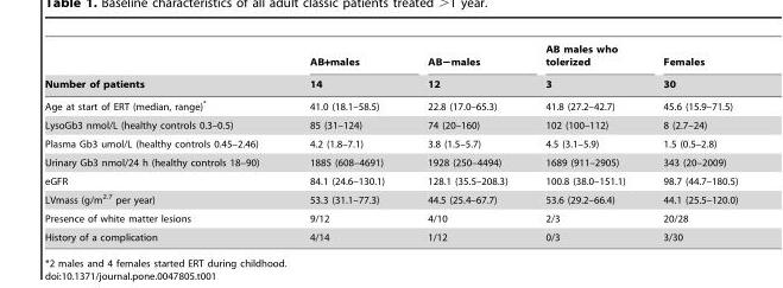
<table><thead><tr><td rowspan="2">Number of patients</td><td rowspan="2">AB+males 14</td><td rowspan="2">AB−males 12</td><td rowspan="2">AB males who tolerized 3</td><td rowspan="2">Females 30</td></tr><tr></tr></thead><tbody><tr><td>Age at start of ERT (median, range)*</td><td>41.0 (18.1–58.5)</td><td>22.8 (17.0–65.3)</td><td>41.8 (27.2–42.7)</td><td>45.6 (15.9–71.5)</td></tr><tr><td>LysoGb3 nmol/L (healthy controls 0.3–0.5)</td><td>85 (31–124)</td><td>74 (20–160)</td><td>102 (100–112)</td><td>8 (2.7–24)</td></tr><tr><td>Plasma Gb3 umol/L (healthy controls 0.45–2.46)</td><td>4.2 (1.8–7.1)</td><td>3.8 (1.5–5.7)</td><td>4.5 (3.1–5.9)</td><td>1.5 (0.5–2.8)</td></tr><tr><td>Urinary Gb3 nmol/24 h (healthy controls 18–90)</td><td>1885 (608–4691)</td><td>1928 (250–4494)</td><td>1689 (911–2905)</td><td>343 (20–2009)</td></tr><tr><td>eGFR</td><td>84.1 (24.6–130.1)</td><td>128.1 (35.5–208.3)</td><td>100.8 (38.0–151.1)</td><td>98.7 (44.7–180.5)</td></tr><tr><td>LVmass (g/m<sup>2.7</sup> per year)</td><td>53.3 (31.1–77.3)</td><td>44.5 (25.4–67.7)</td><td>53.6 (29.2–66.4)</td><td>44.1 (25.5–120.0)</td></tr><tr><td>Presence of white matter lesions</td><td>9/12</td><td>4/10</td><td>2/3</td><td>20/28</td></tr><tr><td>History of a complication</td><td>4/14</td><td>1/12</td><td>0/3</td><td>3/30</td></tr></tbody></table>